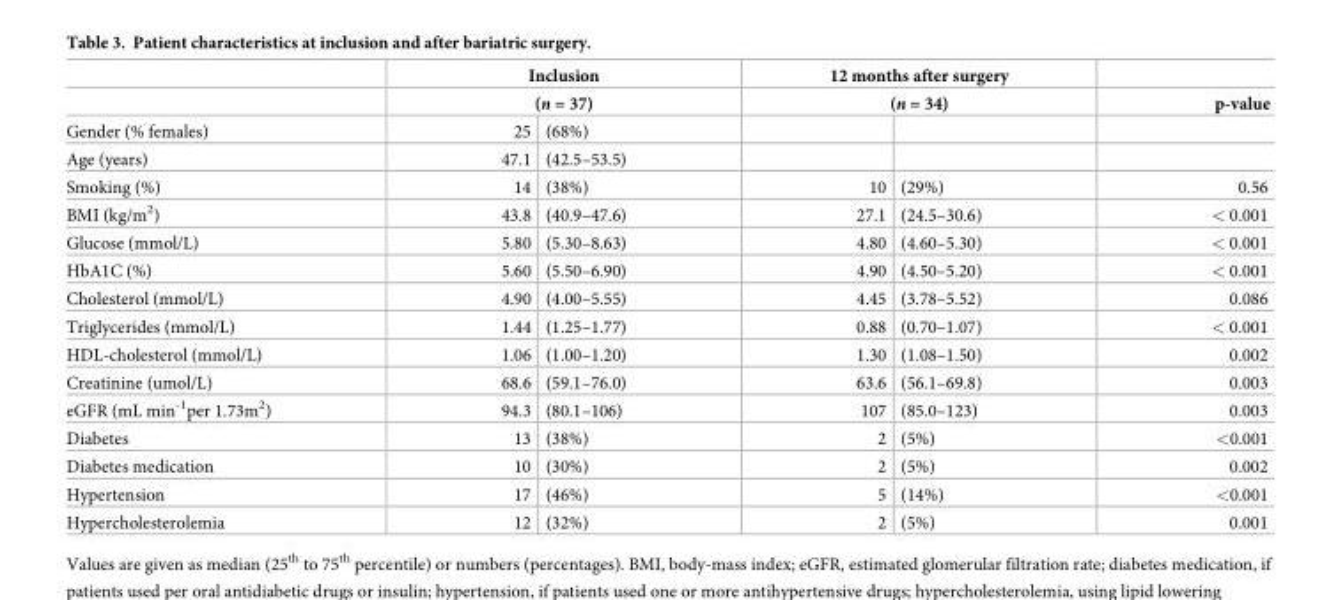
<table><thead><tr><td rowspan="3">Gender (% females)</td><td rowspan="2" colspan="2">Inclusion (n = 37)</td><td rowspan="2" colspan="2">12 months after surgery (n = 34)</td><td rowspan="3">p-value</td></tr><tr></tr><tr><td>25</td><td>(68%)</td><td></td><td></td></tr></thead><tbody><tr><td>Age (years)</td><td>47.1</td><td>(42.5–53.5)</td><td></td><td></td><td></td></tr><tr><td>Smoking (%)</td><td>14</td><td>(38%)</td><td>10</td><td>(29%)</td><td>0.56</td></tr><tr><td>BMI (kg/m<sup>2</sup>)</td><td>43.8</td><td>(40.9–47.6)</td><td>27.1</td><td>(24.5–30.6)</td><td>&lt; 0.001</td></tr><tr><td>Glucose (mmol/L)</td><td>5.80</td><td>(5.30–8.63)</td><td>4.80</td><td>(4.60–5.30)</td><td>&lt; 0.001</td></tr><tr><td>HbA1C (%)</td><td>5.60</td><td>(5.50–6.90)</td><td>4.90</td><td>(4.50–5.20)</td><td>&lt; 0.001</td></tr><tr><td>Cholesterol (mmol/L)</td><td>4.90</td><td>(4.00–5.55)</td><td>4.45</td><td>(3.78–5.52)</td><td>0.086</td></tr><tr><td>Triglycerides (mmol/L)</td><td>1.44</td><td>(1.25–1.77)</td><td>0.88</td><td>(0.70–1.07)</td><td>&lt; 0.001</td></tr><tr><td>HDL-cholesterol (mmol/L)</td><td>1.06</td><td>(1.00–1.20)</td><td>1.30</td><td>(1.08–1.50)</td><td>0.002</td></tr><tr><td>Creatinine (umol/L)</td><td>68.6</td><td>(59.1–76.0)</td><td>63.6</td><td>(56.1–69.8)</td><td>0.003</td></tr><tr><td>eGFR (mL min<sup>-1</sup>per 1.73m<sup>2</sup>)</td><td>94.3</td><td>(80.1–106)</td><td>107</td><td>(85.0–123)</td><td>0.003</td></tr><tr><td>Diabetes</td><td>13</td><td>(38%)</td><td>2</td><td>(5%)</td><td>&lt;0.001</td></tr><tr><td>Diabetes medication</td><td>10</td><td>(30%)</td><td>2</td><td>(5%)</td><td>0.002</td></tr><tr><td>Hypertension</td><td>17</td><td>(46%)</td><td>5</td><td>(14%)</td><td>&lt;0.001</td></tr><tr><td>Hypercholesterolemia</td><td>12</td><td>(32%)</td><td>2</td><td>(5%)</td><td>0.001</td></tr></tbody></table>